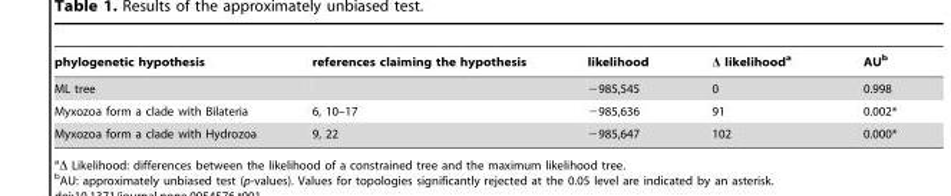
<table><thead><tr><td>phylogenetic hypothesis</td><td>references claiming the hypothesis</td><td>likelihood</td><td>Δ likelihood<sup>a</sup></td><td>AU<sup>b</sup></td></tr></thead><tbody><tr><td>ML tree</td><td></td><td>−985,545</td><td>0</td><td>0.998</td></tr><tr><td>Myxozoa form a clade with Bilateria</td><td>6, 10–17</td><td>−985,636</td><td>91</td><td>0.002*</td></tr><tr><td>Myxozoa form a clade with Hydrozoa</td><td>9, 22</td><td>−985,647</td><td>102</td><td>0.000*</td></tr></tbody></table>